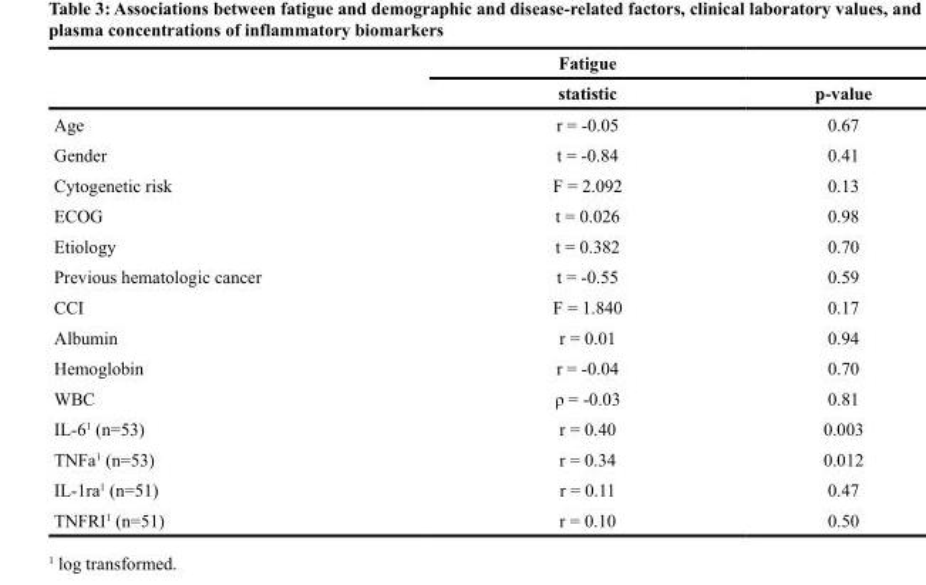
<table><thead><tr><td rowspan="2"></td><td colspan="2">Fatigue</td></tr><tr><td>statistic</td><td>p-value</td></tr></thead><tbody><tr><td>Age</td><td>r = -0.05</td><td>0.67</td></tr><tr><td>Gender</td><td>t = -0.84</td><td>0.41</td></tr><tr><td>Cytogenetic risk</td><td>F = 2.092</td><td>0.13</td></tr><tr><td>ECOG</td><td>t = 0.026</td><td>0.98</td></tr><tr><td>Etiology</td><td>t = 0.382</td><td>0.70</td></tr><tr><td>Previous hematologic cancer</td><td>t = -0.55</td><td>0.59</td></tr><tr><td>CCI</td><td>F = 1.840</td><td>0.17</td></tr><tr><td>Albumin</td><td>r = 0.01</td><td>0.94</td></tr><tr><td>Hemoglobin</td><td>r = -0.04</td><td>0.70</td></tr><tr><td>WBC</td><td>ρ = -0.03</td><td>0.81</td></tr><tr><td>IL-6<sup>1</sup> (n=53)</td><td>r = 0.40</td><td>0.003</td></tr><tr><td>TNFa<sup>1</sup> (n=53)</td><td>r = 0.34</td><td>0.012</td></tr><tr><td>IL-1ra<sup>1</sup> (n=51)</td><td>r = 0.11</td><td>0.47</td></tr><tr><td>TNFRI<sup>1</sup> (n=51)</td><td>r = 0.10</td><td>0.50</td></tr></tbody></table>